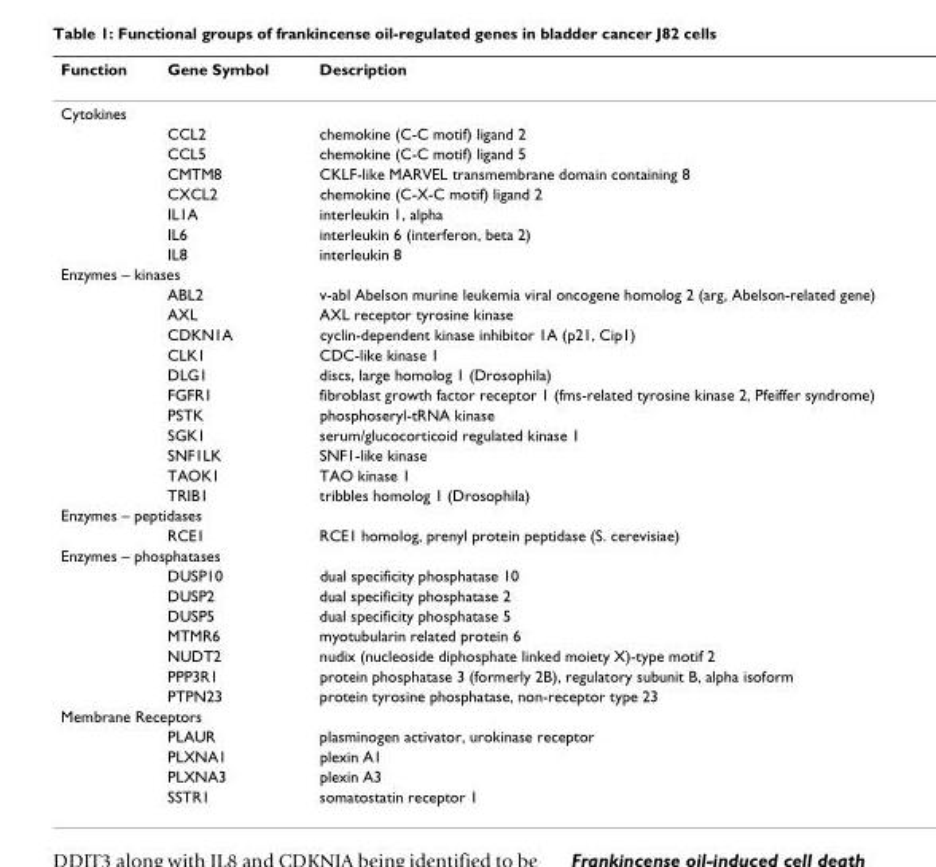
<table><thead><tr><td>Function</td><td>Gene Symbol</td><td>Description</td></tr></thead><tbody><tr><td colspan="3">Cytokines</td></tr><tr><td></td><td>CCL2</td><td>chemokine (C-C motif) ligand 2</td></tr><tr><td></td><td>CCL5</td><td>chemokine (C-C motif) ligand 5</td></tr><tr><td></td><td>CMTM8</td><td>CKLF-like MARVEL transmembrane domain containing 8</td></tr><tr><td></td><td>CXCL2</td><td>chemokine (C-X-C motif) ligand 2</td></tr><tr><td></td><td>IL1A</td><td>interleukin 1, alpha</td></tr><tr><td></td><td>IL6</td><td>interleukin 6 (interferon, beta 2)</td></tr><tr><td></td><td>IL8</td><td>interleukin 8</td></tr><tr><td colspan="3">Enzymes – kinases</td></tr><tr><td></td><td>ABL2</td><td>v-abl Abelson murine leukemia viral oncogene homolog 2 (arg, Abelson-related gene)</td></tr><tr><td></td><td>AXL</td><td>AXL receptor tyrosine kinase</td></tr><tr><td></td><td>CDKN1A</td><td>cyclin-dependent kinase inhibitor 1A (p21, Cip1)</td></tr><tr><td></td><td>CLK1</td><td>CDC-like kinase 1</td></tr><tr><td></td><td>DLG1</td><td>discs, large homolog 1 (Drosophila)</td></tr><tr><td></td><td>FGFR1</td><td>fibroblast growth factor receptor 1 (fms-related tyrosine kinase 2, Pfeiffer syndrome)</td></tr><tr><td></td><td>PSTK</td><td>phosphoseryl-tRNA kinase</td></tr><tr><td></td><td>SGK1</td><td>serum/glucocorticoid regulated kinase 1</td></tr><tr><td></td><td>SNF1LK</td><td>SNF1-like kinase</td></tr><tr><td></td><td>TAOK1</td><td>TAO kinase 1</td></tr><tr><td></td><td>TRIB1</td><td>tribbles homolog 1 (Drosophila)</td></tr><tr><td colspan="3">Enzymes – peptidases</td></tr><tr><td></td><td>RCE1</td><td>RCE1 homolog, prenyl protein peptidase (S. cerevisiae)</td></tr><tr><td colspan="3">Enzymes – phosphatases</td></tr><tr><td></td><td>DUSP10</td><td>dual specificity phosphatase 10</td></tr><tr><td></td><td>DUSP2</td><td>dual specificity phosphatase 2</td></tr><tr><td></td><td>DUSP5</td><td>dual specificity phosphatase 5</td></tr><tr><td></td><td>MTMR6</td><td>myotubularin related protein 6</td></tr><tr><td></td><td>NUDT2</td><td>nudix (nucleoside diphosphate linked moiety X)-type motif 2</td></tr><tr><td></td><td>PPP3R1</td><td>protein phosphatase 3 (formerly 2B), regulatory subunit B, alpha isoform</td></tr><tr><td></td><td>PTPN23</td><td>protein tyrosine phosphatase, non-receptor type 23</td></tr><tr><td colspan="3">Membrane Receptors</td></tr><tr><td></td><td>PLAUR</td><td>plasminogen activator, urokinase receptor</td></tr><tr><td></td><td>PLXNA1</td><td>plexin A1</td></tr><tr><td></td><td>PLXNA3</td><td>plexin A3</td></tr><tr><td></td><td>SSTR1</td><td>somatostatin receptor 1</td></tr></tbody></table>